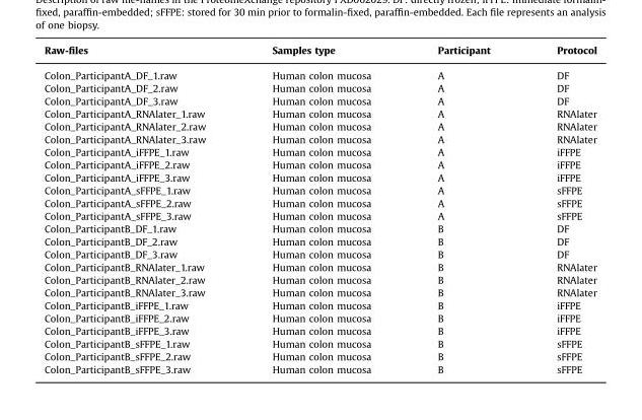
<table><thead><tr><td>Raw-files</td><td>Samples type</td><td>Participant</td><td>Protocol</td></tr></thead><tbody><tr><td>Colon_ParticipantA_DF_1.raw</td><td>Human colon mucosa</td><td>A</td><td>DF</td></tr><tr><td>Colon_ParticipantA_DF_2.raw</td><td>Human colon mucosa</td><td>A</td><td>DF</td></tr><tr><td>Colon_ParticipantA_DF_3.raw</td><td>Human colon mucosa</td><td>A</td><td>DF</td></tr><tr><td>Colon_ParticipantA_RNAlater_1.raw</td><td>Human colon mucosa</td><td>A</td><td>RNAlater</td></tr><tr><td>Colon_ParticipantA_RNAlater_2.raw</td><td>Human colon mucosa</td><td>A</td><td>RNAlater</td></tr><tr><td>Colon_ParticipantA_RNAlater_3.raw</td><td>Human colon mucosa</td><td>A</td><td>RNAlater</td></tr><tr><td>Colon_ParticipantA_iFFPE_1.raw</td><td>Human colon mucosa</td><td>A</td><td>iFFPE</td></tr><tr><td>Colon_ParticipantA_iFFPE_2.raw</td><td>Human colon mucosa</td><td>A</td><td>iFFPE</td></tr><tr><td>Colon_ParticipantA_iFFPE_3.raw</td><td>Human colon mucosa</td><td>A</td><td>iFFPE</td></tr><tr><td>Colon_ParticipantA_sFFPE_1.raw</td><td>Human colon mucosa</td><td>A</td><td>sFFPE</td></tr><tr><td>Colon_ParticipantA_sFFPE_2.raw</td><td>Human colon mucosa</td><td>A</td><td>sFFPE</td></tr><tr><td>Colon_ParticipantA_sFFPE_3.raw</td><td>Human colon mucosa</td><td>A</td><td>sFFPE</td></tr><tr><td>Colon_ParticipantB_DF_1.raw</td><td>Human colon mucosa</td><td>B</td><td>DF</td></tr><tr><td>Colon_ParticipantB_DF_2.raw</td><td>Human colon mucosa</td><td>B</td><td>DF</td></tr><tr><td>Colon_ParticipantB_DF_3.raw</td><td>Human colon mucosa</td><td>B</td><td>DF</td></tr><tr><td>Colon_ParticipantB_RNAlater_1.raw</td><td>Human colon mucosa</td><td>B</td><td>RNAlater</td></tr><tr><td>Colon_ParticipantB_RNAlater_2.raw</td><td>Human colon mucosa</td><td>B</td><td>RNAlater</td></tr><tr><td>Colon_ParticipantB_RNAlater_3.raw</td><td>Human colon mucosa</td><td>B</td><td>RNAlater</td></tr><tr><td>Colon_ParticipantB_iFFPE_1.raw</td><td>Human colon mucosa</td><td>B</td><td>iFFPE</td></tr><tr><td>Colon_ParticipantB_iFFPE_2.raw</td><td>Human colon mucosa</td><td>B</td><td>iFFPE</td></tr><tr><td>Colon_ParticipantB_iFFPE_3.raw</td><td>Human colon mucosa</td><td>B</td><td>iFFPE</td></tr><tr><td>Colon_ParticipantB_sFFPE_1.raw</td><td>Human colon mucosa</td><td>B</td><td>sFFPE</td></tr><tr><td>Colon_ParticipantB_sFFPE_2.raw</td><td>Human colon mucosa</td><td>B</td><td>sFFPE</td></tr><tr><td>Colon_ParticipantB_sFFPE_3.raw</td><td>Human colon mucosa</td><td>B</td><td>sFFPE</td></tr></tbody></table>